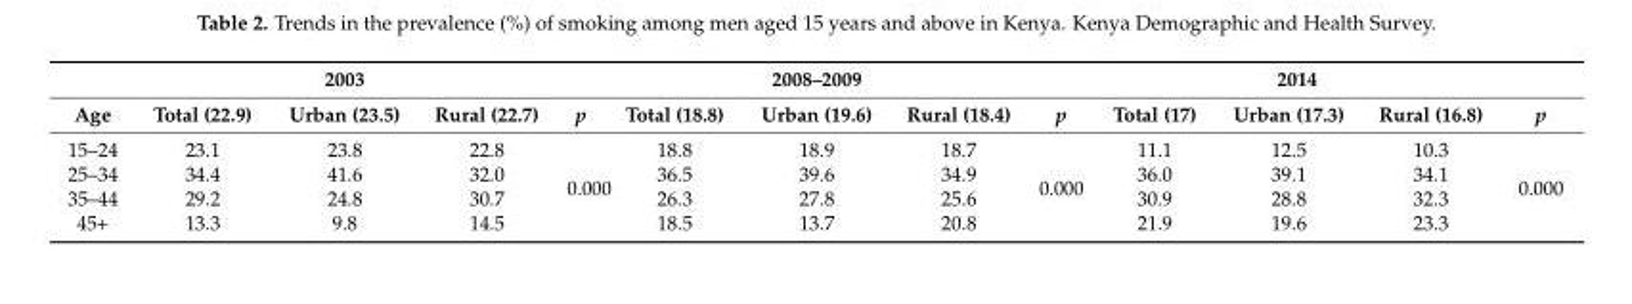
<table><thead><tr><td rowspan="2">Age</td><td colspan="3">2003</td><td rowspan="2">p</td><td colspan="3">2008–2009</td><td rowspan="2">p</td><td colspan="3">2014</td><td rowspan="2">p</td></tr><tr><td>Total (22.9)</td><td>Urban (23.5)</td><td>Rural (22.7)</td><td>Total (18.8)</td><td>Urban (19.6)</td><td>Rural (18.4)</td><td>Total (17)</td><td>Urban (17.3)</td><td>Rural (16.8)</td></tr></thead><tbody><tr><td>15–24</td><td>23.1</td><td>23.8</td><td>22.8</td><td rowspan="4">0.000</td><td>18.8</td><td>18.9</td><td>18.7</td><td rowspan="4">0.000</td><td>11.1</td><td>12.5</td><td>10.3</td><td rowspan="4">0.000</td></tr><tr><td>25–34</td><td>34.4</td><td>41.6</td><td>32.0</td><td>36.5</td><td>39.6</td><td>34.9</td><td>36.0</td><td>39.1</td><td>34.1</td></tr><tr><td>35–44</td><td>29.2</td><td>24.8</td><td>30.7</td><td>26.3</td><td>27.8</td><td>25.6</td><td>30.9</td><td>28.8</td><td>32.3</td></tr><tr><td>45+</td><td>13.3</td><td>9.8</td><td>14.5</td><td>18.5</td><td>13.7</td><td>20.8</td><td>21.9</td><td>19.6</td><td>23.3</td></tr></tbody></table>